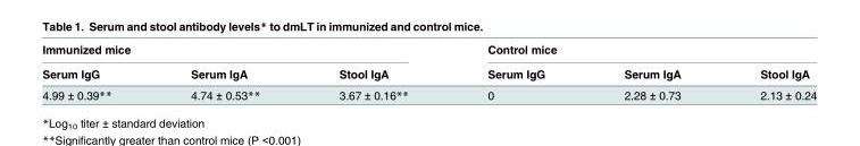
<table><thead><tr><td colspan="3">Immunized mice</td><td colspan="3">Control mice</td></tr><tr><td>Serum IgG</td><td>Serum IgA</td><td>Stool IgA</td><td>Serum IgG</td><td>Serum IgA</td><td>Stool IgA</td></tr></thead><tbody><tr><td>4.99 ± 0.39**</td><td>4.74 ± 0.53**</td><td>3.67 ± 0.16**</td><td>0</td><td>2.28 ± 0.73</td><td>2.13 ± 0.24</td></tr></tbody></table>